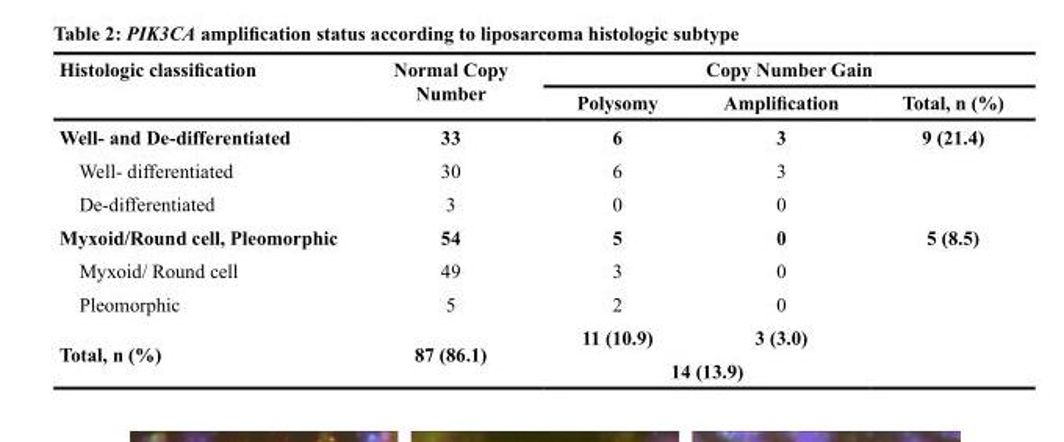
<table><thead><tr><td rowspan="2">Histologic classification</td><td rowspan="2">Normal Copy Number</td><td colspan="3">Copy Number Gain</td></tr><tr><td>Polysomy</td><td>Amplification</td><td>Total, n (%)</td></tr></thead><tbody><tr><td>Well- and De-differentiated</td><td>33</td><td>6</td><td>3</td><td>9 (21.4)</td></tr><tr><td>Well- differentiated</td><td>30</td><td>6</td><td>3</td><td></td></tr><tr><td>De-differentiated</td><td>3</td><td>0</td><td>0</td><td></td></tr><tr><td>Myxoid/Round cell, Pleomorphic</td><td>54</td><td>5</td><td>0</td><td>5 (8.5)</td></tr><tr><td>Myxoid/ Round cell</td><td>49</td><td>3</td><td>0</td><td></td></tr><tr><td>Pleomorphic</td><td>5</td><td>2</td><td>0</td><td></td></tr><tr><td rowspan="2">Total, n (%)</td><td rowspan="2">87 (86.1)</td><td>11 (10.9)</td><td>3 (3.0)</td><td></td></tr><tr><td colspan="2">14 (13.9)</td><td></td></tr></tbody></table>